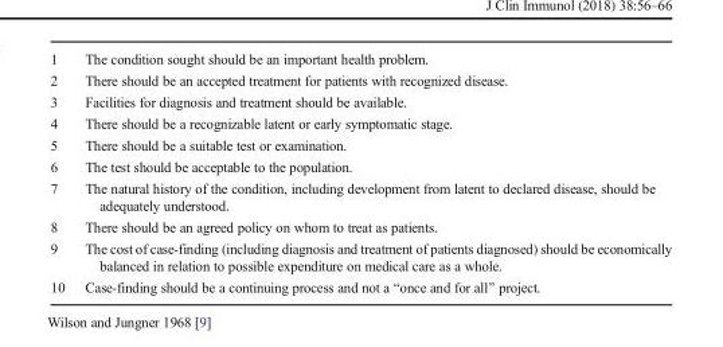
<table><tbody><tr><td>1</td><td>The condition sought should be an important health problem.</td></tr><tr><td>2</td><td>There should be an accepted treatment for patients with recognized disease.</td></tr><tr><td>3</td><td>Facilities for diagnosis and treatment should be available.</td></tr><tr><td>4</td><td>There should be a recognizable latent or early symptomatic stage.</td></tr><tr><td>5</td><td>There should be a suitable test or examination.</td></tr><tr><td>6</td><td>The test should be acceptable to the population.</td></tr><tr><td>7</td><td>The natural history of the condition, including development from latent to declared disease, should be adequately understood.</td></tr><tr><td>8</td><td>There should be an agreed policy on whom to treat as patients.</td></tr><tr><td>9</td><td>The cost of case-finding (including diagnosis and treatment of patients diagnosed) should be economically balanced in relation to possible expenditure on medical care as a whole.</td></tr><tr><td>10</td><td>Case-finding should be a continuing process and not a “once and for all” project.</td></tr></tbody></table>